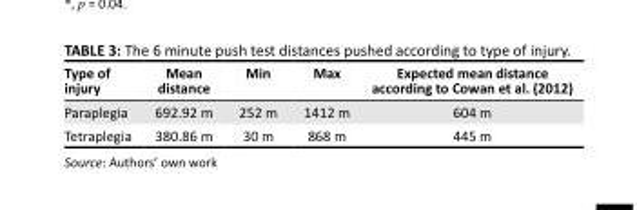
<table><thead><tr><td>Type of injury</td><td>Mean distance</td><td>Min</td><td>Max</td><td>Expected mean distance according to Cowan et al. (2012)</td></tr></thead><tbody><tr><td>Paraplegia</td><td>692.92 m</td><td>252 m</td><td>1412 m</td><td>604 m</td></tr><tr><td>Tetraplegia</td><td>380.86 m</td><td>30 m</td><td>868 m</td><td>445 m</td></tr></tbody></table>